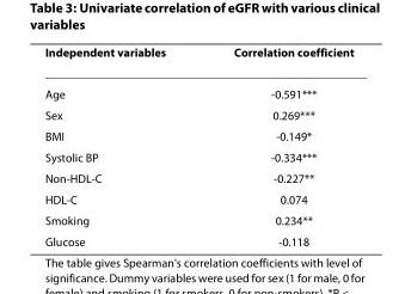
<table><thead><tr><td>Independent variables</td><td>Correlation coefficient</td></tr></thead><tbody><tr><td>Age</td><td>-0.591***</td></tr><tr><td>Sex</td><td>0.269***</td></tr><tr><td>BMI</td><td>-0.149*</td></tr><tr><td>Systolic BP</td><td>-0.334***</td></tr><tr><td>Non-HDL-C</td><td>-0.227**</td></tr><tr><td>HDL-C</td><td>0.074</td></tr><tr><td>Smoking</td><td>0.234**</td></tr><tr><td>Glucose</td><td>-0.118</td></tr></tbody></table>